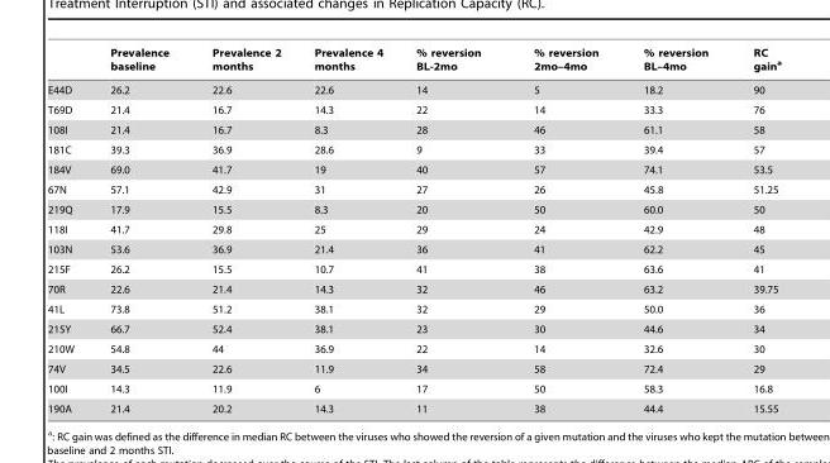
<table><thead><tr><td></td><td>Prevalence baseline</td><td>Prevalence 2 months</td><td>Prevalence 4 months</td><td>% reversion BL-2mo</td><td>% reversion 2mo–4mo</td><td>% reversion BL–4mo</td><td>RC gain<sup>a</sup></td></tr></thead><tbody><tr><td>E44D</td><td>26.2</td><td>22.6</td><td>22.6</td><td>14</td><td>5</td><td>18.2</td><td>90</td></tr><tr><td>T69D</td><td>21.4</td><td>16.7</td><td>14.3</td><td>22</td><td>14</td><td>33.3</td><td>76</td></tr><tr><td>108I</td><td>21.4</td><td>16.7</td><td>8.3</td><td>28</td><td>46</td><td>61.1</td><td>58</td></tr><tr><td>181C</td><td>39.3</td><td>36.9</td><td>28.6</td><td>9</td><td>33</td><td>39.4</td><td>57</td></tr><tr><td>184V</td><td>69.0</td><td>41.7</td><td>19</td><td>40</td><td>57</td><td>74.1</td><td>53.5</td></tr><tr><td>67N</td><td>57.1</td><td>42.9</td><td>31</td><td>27</td><td>26</td><td>45.8</td><td>51.25</td></tr><tr><td>219Q</td><td>17.9</td><td>15.5</td><td>8.3</td><td>20</td><td>50</td><td>60.0</td><td>50</td></tr><tr><td>118I</td><td>41.7</td><td>29.8</td><td>25</td><td>29</td><td>24</td><td>42.9</td><td>48</td></tr><tr><td>103N</td><td>53.6</td><td>36.9</td><td>21.4</td><td>36</td><td>41</td><td>62.2</td><td>45</td></tr><tr><td>215F</td><td>26.2</td><td>15.5</td><td>10.7</td><td>41</td><td>38</td><td>63.6</td><td>41</td></tr><tr><td>70R</td><td>22.6</td><td>21.4</td><td>14.3</td><td>32</td><td>46</td><td>63.2</td><td>39.75</td></tr><tr><td>41L</td><td>73.8</td><td>51.2</td><td>38.1</td><td>32</td><td>29</td><td>50.0</td><td>36</td></tr><tr><td>215Y</td><td>66.7</td><td>52.4</td><td>38.1</td><td>23</td><td>30</td><td>44.6</td><td>34</td></tr><tr><td>210W</td><td>54.8</td><td>44</td><td>36.9</td><td>22</td><td>14</td><td>32.6</td><td>30</td></tr><tr><td>74V</td><td>34.5</td><td>22.6</td><td>11.9</td><td>34</td><td>58</td><td>72.4</td><td>29</td></tr><tr><td>100I</td><td>14.3</td><td>11.9</td><td>6</td><td>17</td><td>50</td><td>58.3</td><td>16.8</td></tr><tr><td>190A</td><td>21.4</td><td>20.2</td><td>14.3</td><td>11</td><td>38</td><td>44.4</td><td>15.55</td></tr></tbody></table>